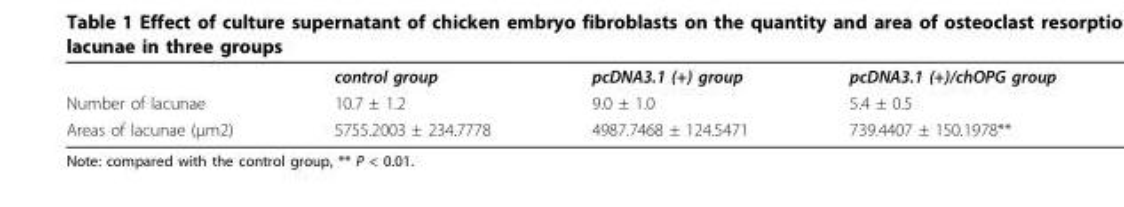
<table><thead><tr><td></td><td>control group</td><td>pcDNA3.1 (+) group</td><td>pcDNA3.1 (+)/chOPG group</td></tr></thead><tbody><tr><td>Number of lacunae</td><td>10.7 ± 1.2</td><td>9.0 ± 1.0</td><td>5.4 ± 0.5</td></tr><tr><td>Areas of lacunae (μm2)</td><td>5755.2003 ± 234.7778</td><td>4987.7468 ± 124.5471</td><td>739.4407 ± 150.1978**</td></tr></tbody></table>